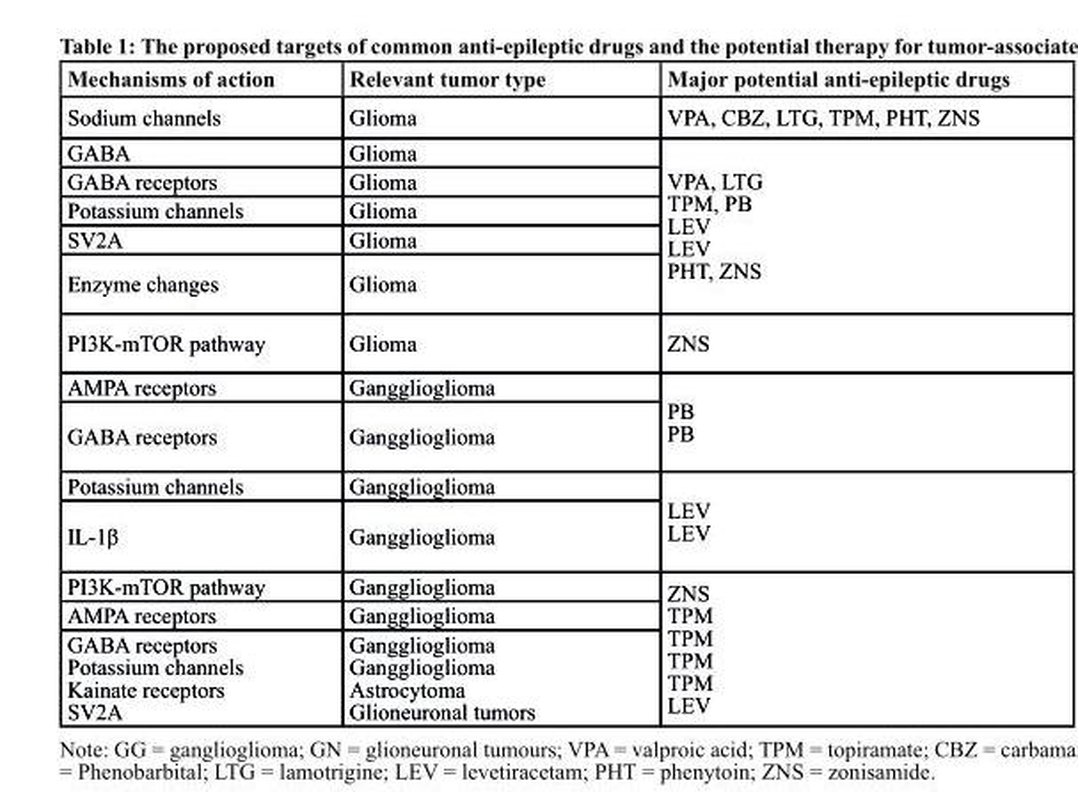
<table><thead><tr><td>mechanisms of action</td><td>relevant tumor type</td><td>major potential anti-epileptic drugs</td></tr></thead><tbody><tr><td>Sodium channels</td><td>Glioma</td><td>VPA, CBZ, LTG, TPM, PHT, ZNS</td></tr><tr><td>GABA</td><td>Glioma</td><td rowspan="5">VPA, LTG TPM, PB LEV LEV PHT, ZNS</td></tr><tr><td>GABA receptors</td><td>Glioma</td></tr><tr><td>Potassium channels</td><td>Glioma</td></tr><tr><td>SV2A</td><td>Glioma</td></tr><tr><td>Enzyme changes</td><td>Glioma</td></tr><tr><td>PI3K-mTOR pathway</td><td>Glioma</td><td>ZNS</td></tr><tr><td>AMPA receptors</td><td>Gangglioglioma</td><td rowspan="2">PB PB</td></tr><tr><td>GABA receptors</td><td>Gangglioglioma</td></tr><tr><td>Potassium channels</td><td>Gangglioglioma</td><td rowspan="2">LEV LEV</td></tr><tr><td>IL-1β</td><td>Gangglioglioma</td></tr><tr><td>PI3K-mTOR pathway</td><td>Gangglioglioma</td><td rowspan="3">ZNS TPM TPM TPM TPM LEV</td></tr><tr><td>AMPA receptors</td><td>Gangglioglioma</td></tr><tr><td>GABA receptors Potassium channels Kainate receptors SV2A</td><td>Gangglioglioma Gangglioglioma Astrocytoma Glioneuronal tumors</td></tr></tbody></table>